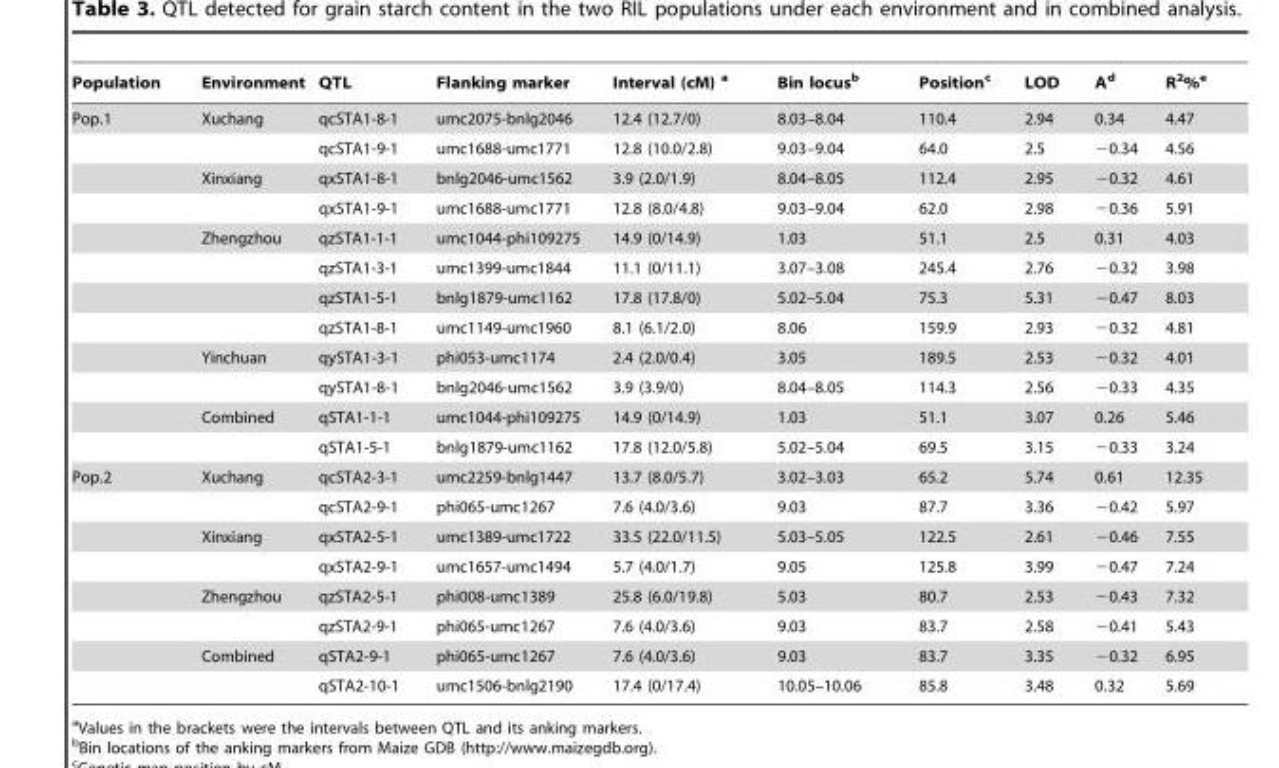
<table><thead><tr><td>Population</td><td>Environment</td><td>QTL</td><td>Flanking marker</td><td>Interval (cM) a</td><td>Bin locus<sup>b</sup></td><td>Position<sup>c</sup></td><td>LOD</td><td>A<sup>d</sup></td><td>R<sup>2</sup>%<sup>e</sup></td></tr></thead><tbody><tr><td rowspan="12">Pop.1</td><td>Xuchang</td><td>qcSTA1-8-1</td><td>umc2075-bnlg2046</td><td>12.4 (12.7/0)</td><td>8.03–8.04</td><td>110.4</td><td>2.94</td><td>0.34</td><td>4.47</td></tr><tr><td></td><td>qcSTA1-9-1</td><td>umc1688-umc1771</td><td>12.8 (10.0/2.8)</td><td>9.03–9.04</td><td>64.0</td><td>2.5</td><td>−0.34</td><td>4.56</td></tr><tr><td>Xinxiang</td><td>qxSTA1-8-1</td><td>bnlg2046-umc1562</td><td>3.9 (2.0/1.9)</td><td>8.04–8.05</td><td>112.4</td><td>2.95</td><td>−0.32</td><td>4.61</td></tr><tr><td></td><td>qxSTA1-9-1</td><td>umc1688-umc1771</td><td>12.8 (8.0/4.8)</td><td>9.03–9.04</td><td>62.0</td><td>2.98</td><td>−0.36</td><td>5.91</td></tr><tr><td>Zhengzhou</td><td>qzSTA1-1-1</td><td>umc1044-phi109275</td><td>14.9 (0/14.9)</td><td>1.03</td><td>51.1</td><td>2.5</td><td>0.31</td><td>4.03</td></tr><tr><td></td><td>qzSTA1-3-1</td><td>umc1399-umc1844</td><td>11.1 (0/11.1)</td><td>3.07–3.08</td><td>245.4</td><td>2.76</td><td>−0.32</td><td>3.98</td></tr><tr><td></td><td>qzSTA1-5-1</td><td>bnlg1879-umc1162</td><td>17.8 (17.8/0)</td><td>5.02–5.04</td><td>75.3</td><td>5.31</td><td>−0.47</td><td>8.03</td></tr><tr><td></td><td>qzSTA1-8-1</td><td>umc1149-umc1960</td><td>8.1 (6.1/2.0)</td><td>8.06</td><td>159.9</td><td>2.93</td><td>−0.32</td><td>4.81</td></tr><tr><td>Yinchuan</td><td>qySTA1-3-1</td><td>phi053-umc1174</td><td>2.4 (2.0/0.4)</td><td>3.05</td><td>189.5</td><td>2.53</td><td>−0.32</td><td>4.01</td></tr><tr><td></td><td>qySTA1-8-1</td><td>bnlg2046-umc1562</td><td>3.9 (3.9/0)</td><td>8.04–8.05</td><td>114.3</td><td>2.56</td><td>−0.33</td><td>4.35</td></tr><tr><td>Combined</td><td>qSTA1-1-1</td><td>umc1044-phi109275</td><td>14.9 (0/14.9)</td><td>1.03</td><td>51.1</td><td>3.07</td><td>0.26</td><td>5.46</td></tr><tr><td></td><td>qSTA1-5-1</td><td>bnlg1879-umc1162</td><td>17.8 (12.0/5.8)</td><td>5.02–5.04</td><td>69.5</td><td>3.15</td><td>−0.33</td><td>3.24</td></tr><tr><td rowspan="8">Pop.2</td><td>Xuchang</td><td>qcSTA2-3-1</td><td>umc2259-bnlg1447</td><td>13.7 (8.0/5.7)</td><td>3.02–3.03</td><td>65.2</td><td>5.74</td><td>0.61</td><td>12.35</td></tr><tr><td></td><td>qcSTA2-9-1</td><td>phi065-umc1267</td><td>7.6 (4.0/3.6)</td><td>9.03</td><td>87.7</td><td>3.36</td><td>−0.42</td><td>5.97</td></tr><tr><td>Xinxiang</td><td>qxSTA2-5-1</td><td>umc1389-umc1722</td><td>33.5 (22.0/11.5)</td><td>5.03–5.05</td><td>122.5</td><td>2.61</td><td>−0.46</td><td>7.55</td></tr><tr><td></td><td>qxSTA2-9-1</td><td>umc1657-umc1494</td><td>5.7 (4.0/1.7)</td><td>9.05</td><td>125.8</td><td>3.99</td><td>−0.47</td><td>7.24</td></tr><tr><td>Zhengzhou</td><td>qzSTA2-5-1</td><td>phi008-umc1389</td><td>25.8 (6.0/19.8)</td><td>5.03</td><td>80.7</td><td>2.53</td><td>−0.43</td><td>7.32</td></tr><tr><td></td><td>qzSTA2-9-1</td><td>phi065-umc1267</td><td>7.6 (4.0/3.6)</td><td>9.03</td><td>83.7</td><td>2.58</td><td>−0.41</td><td>5.43</td></tr><tr><td>Combined</td><td>qSTA2-9-1</td><td>phi065-umc1267</td><td>7.6 (4.0/3.6)</td><td>9.03</td><td>83.7</td><td>3.35</td><td>−0.32</td><td>6.95</td></tr><tr><td></td><td>qSTA2-10-1</td><td>umc1506-bnlg2190</td><td>17.4 (0/17.4)</td><td>10.05–10.06</td><td>85.8</td><td>3.48</td><td>0.32</td><td>5.69</td></tr></tbody></table>